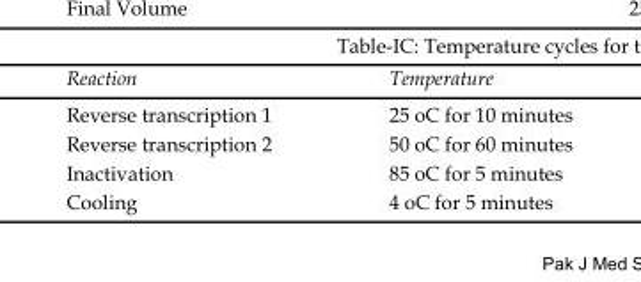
<table><thead><tr><td>Reaction</td><td>Temperature</td></tr></thead><tbody><tr><td>Reverse transcription 1</td><td>25 °C for 10 minutes</td></tr><tr><td>Reverse transcription 2</td><td>50 °C for 60 minutes</td></tr><tr><td>Inactivation</td><td>85 °C for 5 minutes</td></tr><tr><td>Cooling</td><td>4 °C for 5 minutes</td></tr></tbody></table>